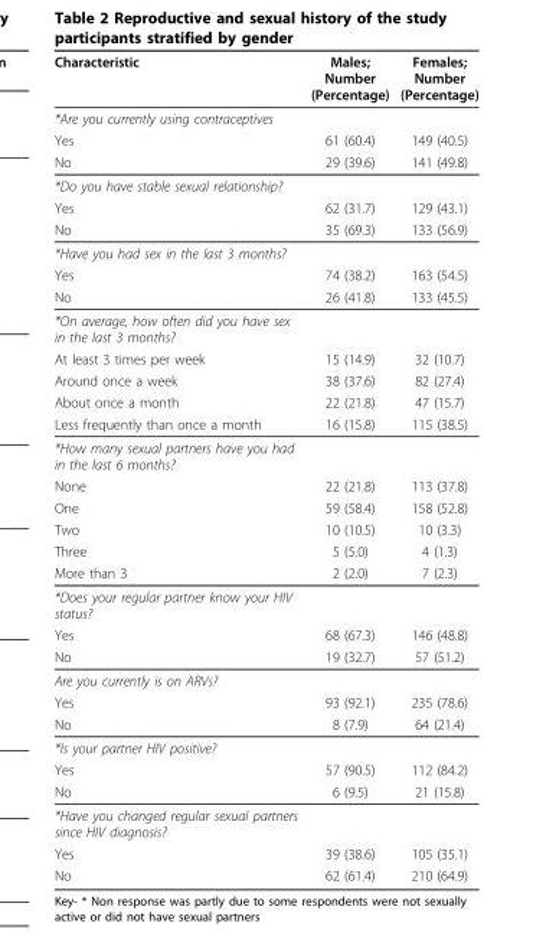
<table><thead><tr><td>Characteristic</td><td>Males; Number (Percentage)</td><td>Females; Number (Percentage)</td></tr></thead><tbody><tr><td colspan="3">*Are you currently using contraceptives</td></tr><tr><td>Yes</td><td>61 (60.4)</td><td>149 (40.5)</td></tr><tr><td>No</td><td>29 (39.6)</td><td>141 (49.8)</td></tr><tr><td colspan="3">*Do you have stable sexual relationship?</td></tr><tr><td>Yes</td><td>62 (31.7)</td><td>129 (43.1)</td></tr><tr><td>No</td><td>35 (69.3)</td><td>133 (56.9)</td></tr><tr><td colspan="3">*Have you had sex in the last 3 months?</td></tr><tr><td>Yes</td><td>74 (38.2)</td><td>163 (54.5)</td></tr><tr><td>No</td><td>26 (41.8)</td><td>133 (45.5)</td></tr><tr><td colspan="3">*On average, how often did you have sex in the last 3 months?</td></tr><tr><td>At least 3 times per week</td><td>15 (14.9)</td><td>32 (10.7)</td></tr><tr><td>Around once a week</td><td>38 (37.6)</td><td>82 (27.4)</td></tr><tr><td>About once a month</td><td>22 (21.8)</td><td>47 (15.7)</td></tr><tr><td>Less frequently than once a month</td><td>16 (15.8)</td><td>115 (38.5)</td></tr><tr><td colspan="3">*How many sexual partners have you had in the last 6 months?</td></tr><tr><td>None</td><td>22 (21.8)</td><td>113 (37.8)</td></tr><tr><td>One</td><td>59 (58.4)</td><td>158 (52.8)</td></tr><tr><td>Two</td><td>10 (10.5)</td><td>10 (3.3)</td></tr><tr><td>Three</td><td>5 (5.0)</td><td>4 (1.3)</td></tr><tr><td>More than 3</td><td>2 (2.0)</td><td>7 (2.3)</td></tr><tr><td colspan="3">*Does your regular partner know your HIV status?</td></tr><tr><td>Yes</td><td>68 (67.3)</td><td>146 (48.8)</td></tr><tr><td>No</td><td>19 (32.7)</td><td>57 (51.2)</td></tr><tr><td colspan="3">Are you currently is on ARVs?</td></tr><tr><td>Yes</td><td>93 (92.1)</td><td>235 (78.6)</td></tr><tr><td>No</td><td>8 (7.9)</td><td>64 (21.4)</td></tr><tr><td colspan="3">*Is your partner HIV positive?</td></tr><tr><td>Yes</td><td>57 (90.5)</td><td>112 (84.2)</td></tr><tr><td>No</td><td>6 (9.5)</td><td>21 (15.8)</td></tr><tr><td colspan="3">*Have you changed regular sexual partners since HIV diagnosis?</td></tr><tr><td>Yes</td><td>39 (38.6)</td><td>105 (35.1)</td></tr><tr><td>No</td><td>62 (61.4)</td><td>210 (64.9)</td></tr></tbody></table>